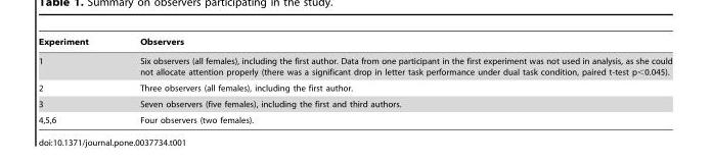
<table><thead><tr><td>Experiment</td><td>Observers</td></tr></thead><tbody><tr><td>1</td><td>Six observers (all females), including the first author. Data from one participant in the first experiment was not used in analysis, as she could not allocate attention properly (there was a significant drop in letter task performance under dual task condition, paired t-test p&lt;0.045).</td></tr><tr><td>2</td><td>Three observers (all females), including the first author.</td></tr><tr><td>3</td><td>Seven observers (five females), including the first and third authors.</td></tr><tr><td>4,5,6</td><td>Four observers (two females).</td></tr></tbody></table>